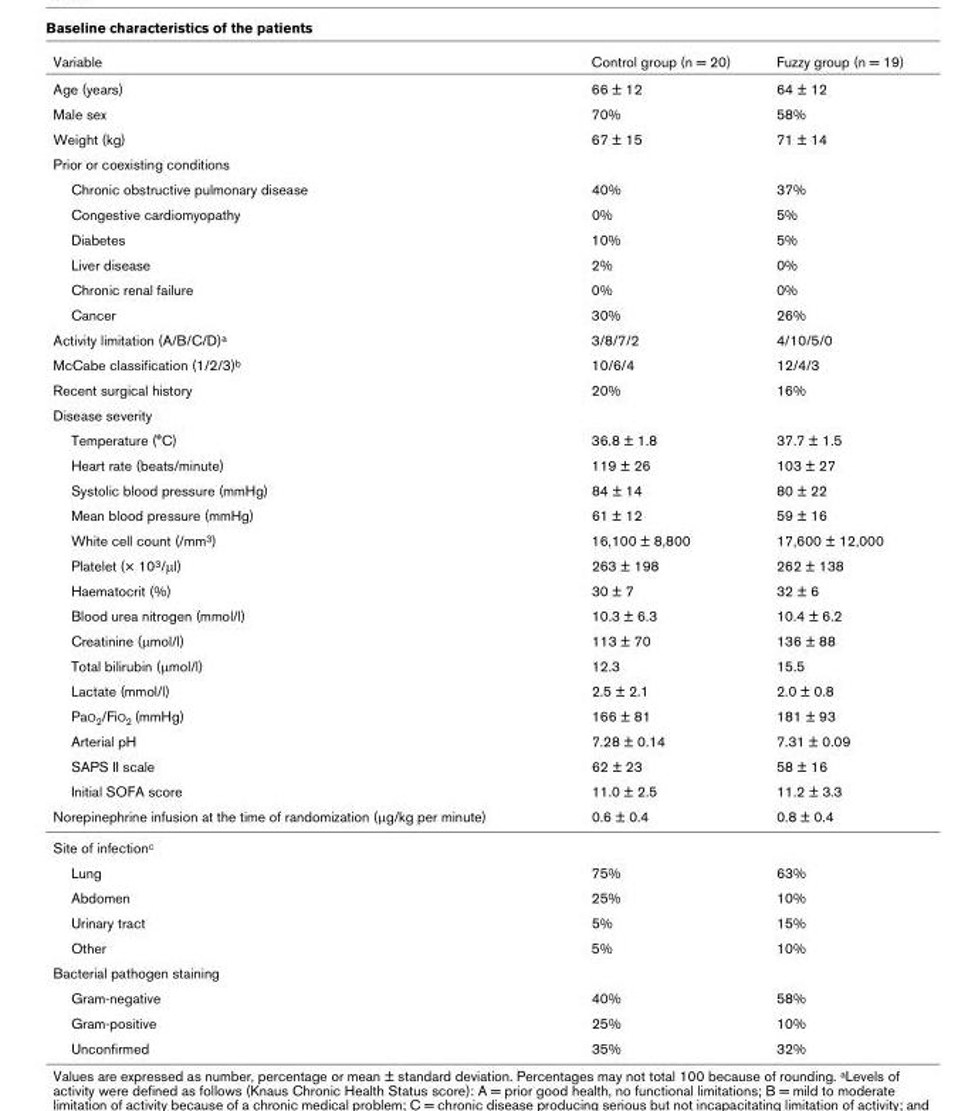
<table><thead><tr><td>Variable</td><td>Control group (n = 20)</td><td>Fuzzy group (n = 19)</td></tr></thead><tbody><tr><td>Age (years)</td><td>66 ± 12</td><td>64 ± 12</td></tr><tr><td>Male sex</td><td>70%</td><td>58%</td></tr><tr><td>Weight (kg)</td><td>67 ± 15</td><td>71 ± 14</td></tr><tr><td colspan="3">Prior or coexisting conditions</td></tr><tr><td>Chronic obstructive pulmonary disease</td><td>40%</td><td>37%</td></tr><tr><td>Congestive cardiomyopathy</td><td>0%</td><td>5%</td></tr><tr><td>Diabetes</td><td>10%</td><td>5%</td></tr><tr><td>Liver disease</td><td>2%</td><td>0%</td></tr><tr><td>Chronic renal failure</td><td>0%</td><td>0%</td></tr><tr><td>Cancer</td><td>30%</td><td>26%</td></tr><tr><td>Activity limitation (A/B/C/D)<sup>a</sup></td><td>3/8/7/2</td><td>4/10/5/0</td></tr><tr><td>McCabe classification (1/2/3)<sup>b</sup></td><td>10/6/4</td><td>12/4/3</td></tr><tr><td>Recent surgical history</td><td>20%</td><td>16%</td></tr><tr><td colspan="3">Disease severity</td></tr><tr><td>Temperature (°C)</td><td>36.8 ± 1.8</td><td>37.7 ± 1.5</td></tr><tr><td>Heart rate (beats/minute)</td><td>119 ± 26</td><td>103 ± 27</td></tr><tr><td>Systolic blood pressure (mmHg)</td><td>84 ± 14</td><td>80 ± 22</td></tr><tr><td>Mean blood pressure (mmHg)</td><td>61 ± 12</td><td>59 ± 16</td></tr><tr><td>White cell count (/mm<sup>3</sup>)</td><td>16,100 ± 8,800</td><td>17,600 ± 12,000</td></tr><tr><td>Platelet (× 10<sup>3</sup>/μl)</td><td>263 ± 198</td><td>262 ± 138</td></tr><tr><td>Haematocrit (%)</td><td>30 ± 7</td><td>32 ± 6</td></tr><tr><td>Blood urea nitrogen (mmol/l)</td><td>10.3 ± 6.3</td><td>10.4 ± 6.2</td></tr><tr><td>Creatinine (μmol/l)</td><td>113 ± 70</td><td>136 ± 88</td></tr><tr><td>Total bilirubin (μmol/l)</td><td>12.3</td><td>15.5</td></tr><tr><td>Lactate (mmol/l)</td><td>2.5 ± 2.1</td><td>2.0 ± 0.8</td></tr><tr><td>PaO<sub>2</sub>/FiO<sub>2</sub> (mmHg)</td><td>166 ± 81</td><td>181 ± 93</td></tr><tr><td>Arterial pH</td><td>7.28 ± 0.14</td><td>7.31 ± 0.09</td></tr><tr><td>SAPS II scale</td><td>62 ± 23</td><td>58 ± 16</td></tr><tr><td>Initial SOFA score</td><td>11.0 ± 2.5</td><td>11.2 ± 3.3</td></tr><tr><td>Norepinephrine infusion at the time of randomization (μg/kg per minute)</td><td>0.6 ± 0.4</td><td>0.8 ± 0.4</td></tr><tr><td colspan="3">Site of infection<sup>c</sup></td></tr><tr><td>Lung</td><td>75%</td><td>63%</td></tr><tr><td>Abdomen</td><td>25%</td><td>10%</td></tr><tr><td>Urinary tract</td><td>5%</td><td>15%</td></tr><tr><td>Other</td><td>5%</td><td>10%</td></tr><tr><td colspan="3">Bacterial pathogen staining</td></tr><tr><td>Gram-negative</td><td>40%</td><td>58%</td></tr><tr><td>Gram-positive</td><td>25%</td><td>10%</td></tr><tr><td>Unconfirmed</td><td>35%</td><td>32%</td></tr></tbody></table>